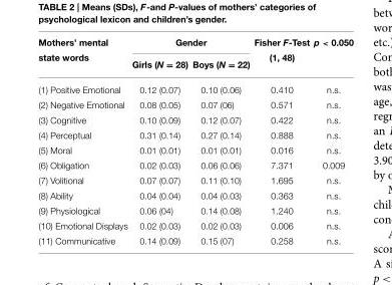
<table><thead><tr><td rowspan="2">Mothers’ mental state words</td><td colspan="2">Gender</td><td rowspan="2">Fisher F-Test (1, 48)</td><td rowspan="2">p &lt; 0.050</td></tr><tr><td>Girls (N = 28)</td><td>Boys (N = 22)</td></tr></thead><tbody><tr><td>(1) Positive Emotional</td><td>0.12 (0.07)</td><td>0.10 (0.06)</td><td>0.410</td><td>n.s.</td></tr><tr><td>(2) Negative Emotional</td><td>0.08 (0.05)</td><td>0.07 (06)</td><td>0.571</td><td>n.s.</td></tr><tr><td>(3) Cognitive</td><td>0.10 (0.09)</td><td>0.12 (0.07)</td><td>0.422</td><td>n.s.</td></tr><tr><td>(4) Perceptual</td><td>0.31 (0.14)</td><td>0.27 (0.14)</td><td>0.888</td><td>n.s.</td></tr><tr><td>(5) Moral</td><td>0.01 (0.01)</td><td>0.01 (0.01)</td><td>0.016</td><td>n.s.</td></tr><tr><td>(6) Obligation</td><td>0.02 (0.03)</td><td>0.06 (0.06)</td><td>7.371</td><td>0.009</td></tr><tr><td>(7) Volitional</td><td>0.07 (0.07)</td><td>0.11 (0.10)</td><td>1.695</td><td>n.s.</td></tr><tr><td>(8) Ability</td><td>0.04 (0.04)</td><td>0.04 (0.03)</td><td>0.363</td><td>n.s.</td></tr><tr><td>(9) Physiological</td><td>0.06 (04)</td><td>0.14 (0.08)</td><td>1.240</td><td>n.s.</td></tr><tr><td>(10) Emotional Displays</td><td>0.02 (0.03)</td><td>0.02 (0.03)</td><td>0.006</td><td>n.s.</td></tr><tr><td>(11) Communicative</td><td>0.14 (0.09)</td><td>0.15 (07)</td><td>0.258</td><td>n.s.</td></tr></tbody></table>